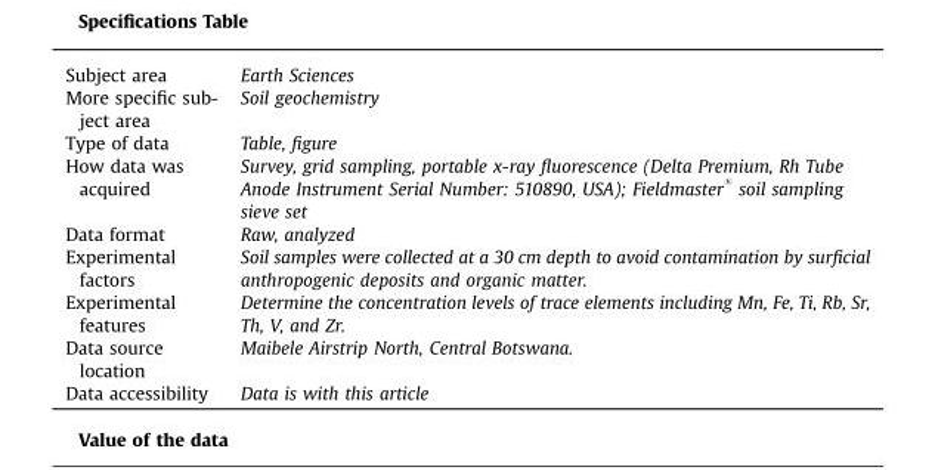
<table><tbody><tr><td>Subject area</td><td>Earth Sciences</td></tr><tr><td>More specific sub- ject area</td><td>Soil geochemistry</td></tr><tr><td>Type of data</td><td>Table, figure</td></tr><tr><td>How data was acquired</td><td>Survey, grid sampling, portable x-ray fluorescence (Delta Premium, Rh Tube Anode Instrument Serial Number: 510890, USA); Fieldmaster <sup>®</sup> soil sampling sieve set</td></tr><tr><td>Data format</td><td>Raw, analyzed</td></tr><tr><td>Experimental factors</td><td>Soil samples were collected at a 30 cm depth to avoid contamination by surficial anthropogenic deposits and organic matter.</td></tr><tr><td>Experimental features</td><td>Determine the concentration levels of trace elements including Mn, Fe, Ti, Rb, Sr, Th, V, and Zr.</td></tr><tr><td>Data source location</td><td>Maibele Airstrip North, Central Botswana.</td></tr><tr><td>Data accessibility</td><td>Data is with this article</td></tr></tbody></table>